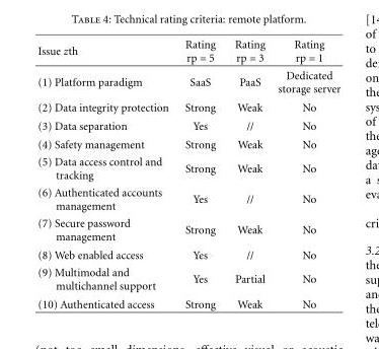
<table><thead><tr><td>Issue zth</td><td>Rating rp = 5</td><td>Rating rp = 3</td><td>Rating rp = 1</td></tr></thead><tbody><tr><td>(1) Platform paradigm</td><td>SaaS</td><td>PaaS</td><td>Dedicated storage server</td></tr><tr><td>(2) Data integrity protection</td><td>Strong</td><td>Weak</td><td>No</td></tr><tr><td>(3) Data separation</td><td>Yes</td><td>//</td><td>No</td></tr><tr><td>(4) Safety management</td><td>Strong</td><td>Weak</td><td>No</td></tr><tr><td>(5) Data access control and tracking</td><td>Strong</td><td>Weak</td><td>No</td></tr><tr><td>(6) Authenticated accounts management</td><td>Yes</td><td>//</td><td>No</td></tr><tr><td>(7) Secure password management</td><td>Strong</td><td>Weak</td><td>No</td></tr><tr><td>(8) Web enabled access</td><td>Yes</td><td>//</td><td>No</td></tr><tr><td>(9) Multimodal and multichannel support</td><td>Yes</td><td>Partial</td><td>No</td></tr><tr><td>(10) Authenticated access</td><td>Strong</td><td>Weak</td><td>No</td></tr></tbody></table>